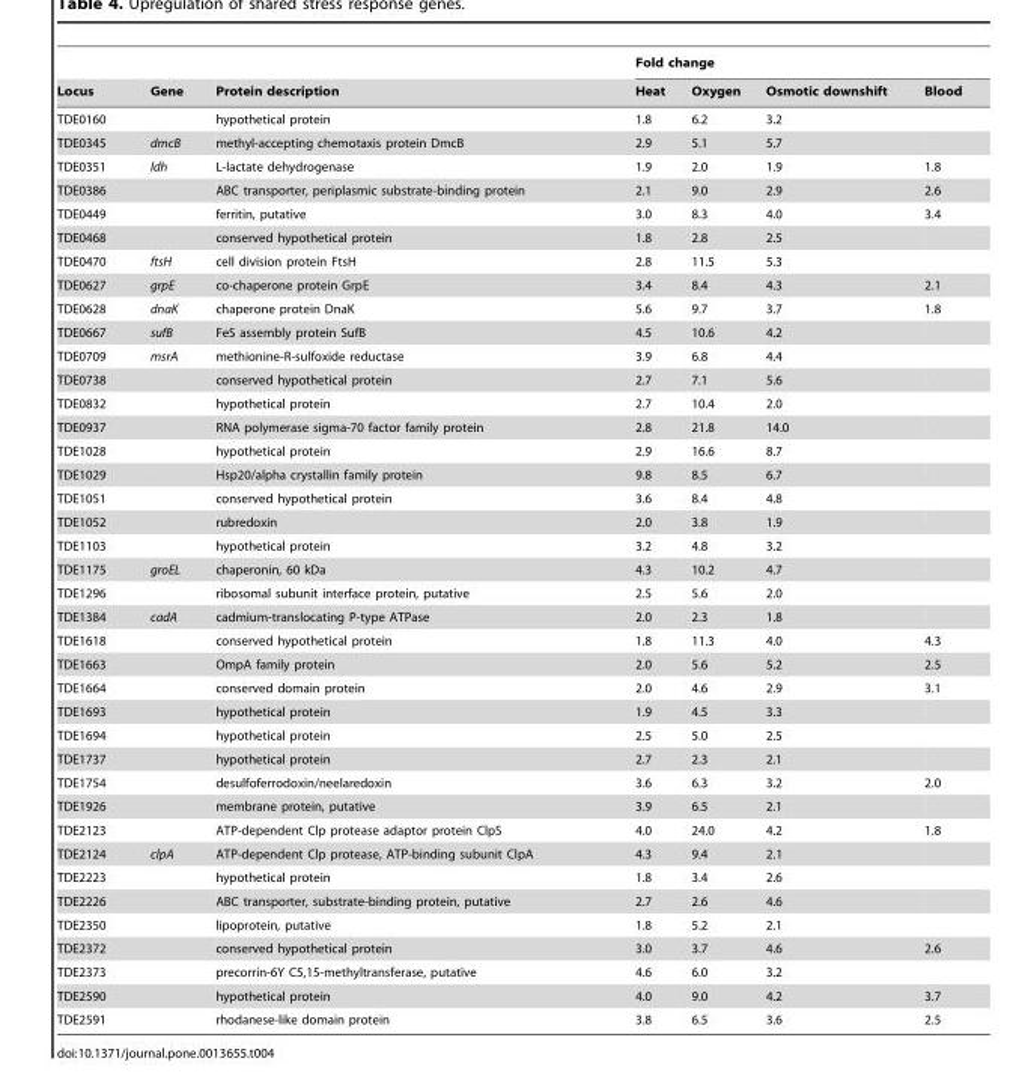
<table><thead><tr><td rowspan="2">Locus</td><td rowspan="2">Gene</td><td rowspan="2">Protein description</td><td colspan="4">Fold change</td></tr><tr><td>Heat</td><td>Oxygen</td><td>Osmotic downshift</td><td>Blood</td></tr></thead><tbody><tr><td>TDE0160</td><td></td><td>hypothetical protein</td><td>1.8</td><td>6.2</td><td>3.2</td><td></td></tr><tr><td>TDE0345</td><td>dmcB</td><td>methyl-accepting chemotaxis protein DmcB</td><td>2.9</td><td>5.1</td><td>5.7</td><td></td></tr><tr><td>TDE0351</td><td>ldh</td><td>L-lactate dehydrogenase</td><td>1.9</td><td>2.0</td><td>1.9</td><td>1.8</td></tr><tr><td>TDE0386</td><td></td><td>ABC transporter, periplasmic substrate-binding protein</td><td>2.1</td><td>9.0</td><td>2.9</td><td>2.6</td></tr><tr><td>TDE0449</td><td></td><td>ferritin, putative</td><td>3.0</td><td>8.3</td><td>4.0</td><td>3.4</td></tr><tr><td>TDE0468</td><td></td><td>conserved hypothetical protein</td><td>1.8</td><td>2.8</td><td>2.5</td><td></td></tr><tr><td>TDE0470</td><td>ftsH</td><td>cell division protein FtsH</td><td>2.8</td><td>11.5</td><td>5.3</td><td></td></tr><tr><td>TDE0627</td><td>grpE</td><td>co-chaperone protein GrpE</td><td>3.4</td><td>8.4</td><td>4.3</td><td>2.1</td></tr><tr><td>TDE0628</td><td>dnaK</td><td>chaperone protein DnaK</td><td>5.6</td><td>9.7</td><td>3.7</td><td>1.8</td></tr><tr><td>TDE0667</td><td>sufB</td><td>FeS assembly protein SufB</td><td>4.5</td><td>10.6</td><td>4.2</td><td></td></tr><tr><td>TDE0709</td><td>msrA</td><td>methionine-R-sulfoxide reductase</td><td>3.9</td><td>6.8</td><td>4.4</td><td></td></tr><tr><td>TDE0738</td><td></td><td>conserved hypothetical protein</td><td>2.7</td><td>7.1</td><td>5.6</td><td></td></tr><tr><td>TDE0832</td><td></td><td>hypothetical protein</td><td>2.7</td><td>10.4</td><td>2.0</td><td></td></tr><tr><td>TDE0937</td><td></td><td>RNA polymerase sigma-70 factor family protein</td><td>2.8</td><td>21.8</td><td>14.0</td><td></td></tr><tr><td>TDE1028</td><td></td><td>hypothetical protein</td><td>2.9</td><td>16.6</td><td>8.7</td><td></td></tr><tr><td>TDE1029</td><td></td><td>Hsp20/alpha crystallin family protein</td><td>9.8</td><td>8.5</td><td>6.7</td><td></td></tr><tr><td>TDE1051</td><td></td><td>conserved hypothetical protein</td><td>3.6</td><td>8.4</td><td>4.8</td><td></td></tr><tr><td>TDE1052</td><td></td><td>rubredoxin</td><td>2.0</td><td>3.8</td><td>1.9</td><td></td></tr><tr><td>TDE1103</td><td></td><td>hypothetical protein</td><td>3.2</td><td>4.8</td><td>3.2</td><td></td></tr><tr><td>TDE1175</td><td>groEL</td><td>chaperonin, 60 kDa</td><td>4.3</td><td>10.2</td><td>4.7</td><td></td></tr><tr><td>TDE1296</td><td></td><td>ribosomal subunit interface protein, putative</td><td>2.5</td><td>5.6</td><td>2.0</td><td></td></tr><tr><td>TDE1384</td><td>cadA</td><td>cadmium-translocating P-type ATPase</td><td>2.0</td><td>2.3</td><td>1.8</td><td></td></tr><tr><td>TDE1618</td><td></td><td>conserved hypothetical protein</td><td>1.8</td><td>11.3</td><td>4.0</td><td>4.3</td></tr><tr><td>TDE1663</td><td></td><td>OmpA family protein</td><td>2.0</td><td>5.6</td><td>5.2</td><td>2.5</td></tr><tr><td>TDE1664</td><td></td><td>conserved domain protein</td><td>2.0</td><td>4.6</td><td>2.9</td><td>3.1</td></tr><tr><td>TDE1693</td><td></td><td>hypothetical protein</td><td>1.9</td><td>4.5</td><td>3.3</td><td></td></tr><tr><td>TDE1694</td><td></td><td>hypothetical protein</td><td>2.5</td><td>5.0</td><td>2.5</td><td></td></tr><tr><td>TDE1737</td><td></td><td>hypothetical protein</td><td>2.7</td><td>2.3</td><td>2.1</td><td></td></tr><tr><td>TDE1754</td><td></td><td>desulfoferrodoxin/neelaredoxin</td><td>3.6</td><td>6.3</td><td>3.2</td><td>2.0</td></tr><tr><td>TDE1926</td><td></td><td>membrane protein, putative</td><td>3.9</td><td>6.5</td><td>2.1</td><td></td></tr><tr><td>TDE2123</td><td></td><td>ATP-dependent Clp protease adaptor protein ClpS</td><td>4.0</td><td>24.0</td><td>4.2</td><td>1.8</td></tr><tr><td>TDE2124</td><td>clpA</td><td>ATP-dependent Clp protease, ATP-binding subunit ClpA</td><td>4.3</td><td>9.4</td><td>2.1</td><td></td></tr><tr><td>TDE2223</td><td></td><td>hypothetical protein</td><td>1.8</td><td>3.4</td><td>2.6</td><td></td></tr><tr><td>TDE2226</td><td></td><td>ABC transporter, substrate-binding protein, putative</td><td>2.7</td><td>2.6</td><td>4.6</td><td></td></tr><tr><td>TDE2350</td><td></td><td>lipoprotein, putative</td><td>1.8</td><td>5.2</td><td>2.1</td><td></td></tr><tr><td>TDE2372</td><td></td><td>conserved hypothetical protein</td><td>3.0</td><td>3.7</td><td>4.6</td><td>2.6</td></tr><tr><td>TDE2373</td><td></td><td>precorrin-6Y C5,15-methyltransferase, putative</td><td>4.6</td><td>6.0</td><td>3.2</td><td></td></tr><tr><td>TDE2590</td><td></td><td>hypothetical protein</td><td>4.0</td><td>9.0</td><td>4.2</td><td>3.7</td></tr><tr><td>TDE2591</td><td></td><td>rhodanese-like domain protein</td><td>3.8</td><td>6.5</td><td>3.6</td><td>2.5</td></tr></tbody></table>